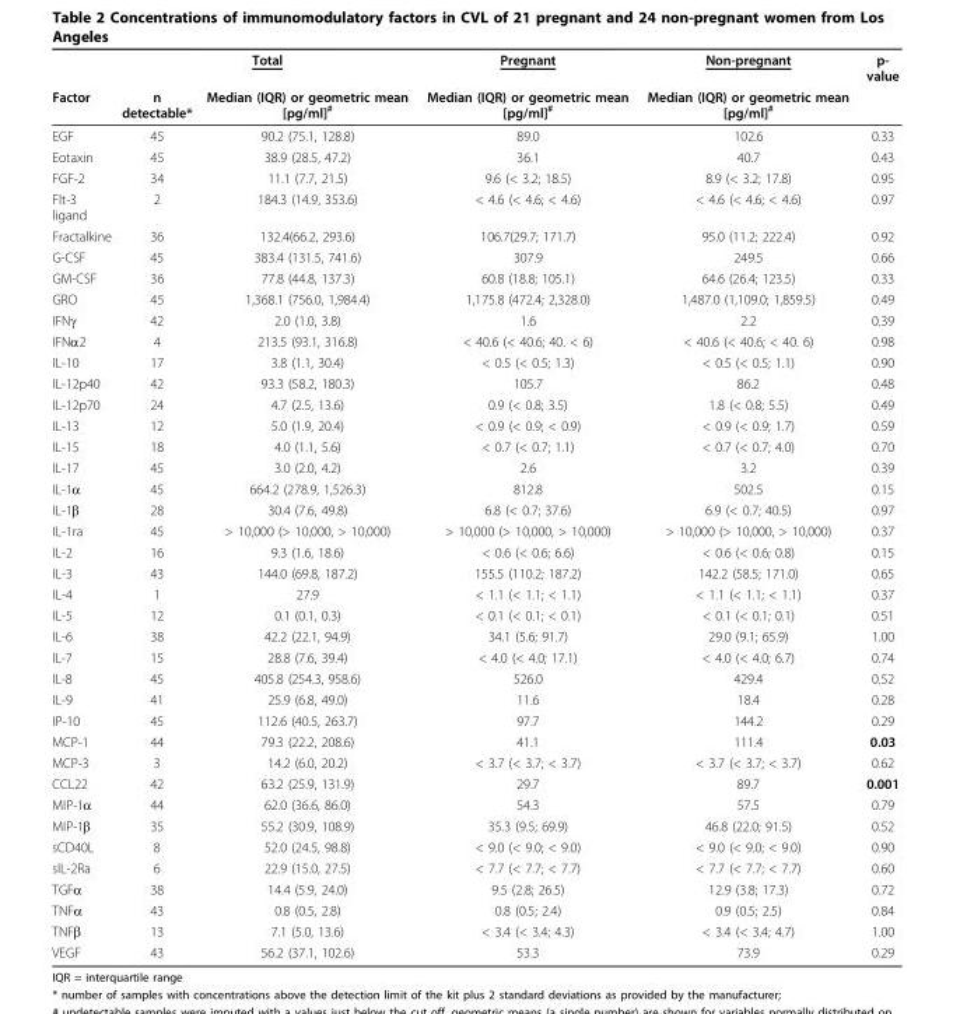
<table><thead><tr><td rowspan="2">Factor</td><td colspan="2">Total</td><td rowspan="2">Pregnant Median (IQR) or geometric mean [pg/ml]<sup>#</sup></td><td rowspan="2">Non-pregnant Median (IQR) or geometric mean [pg/ml]<sup>#</sup></td><td rowspan="2">p- value</td></tr><tr><td>n detectable*</td><td>Median (IQR) or geometric mean [pg/ml]<sup>#</sup></td></tr></thead><tbody><tr><td>EGF</td><td>45</td><td>90.2 (75.1, 128.8)</td><td>89.0</td><td>102.6</td><td>0.33</td></tr><tr><td>Eotaxin</td><td>45</td><td>38.9 (28.5, 47.2)</td><td>36.1</td><td>40.7</td><td>0.43</td></tr><tr><td>FGF-2</td><td>34</td><td>11.1 (7.7, 21.5)</td><td>9.6 (&lt; 3.2; 18.5)</td><td>8.9 (&lt; 3.2; 17.8)</td><td>0.95</td></tr><tr><td>Flt-3 ligand</td><td>2</td><td>184.3 (14.9, 353.6)</td><td>&lt; 4.6 (&lt; 4.6; &lt; 4.6)</td><td>&lt; 4.6 (&lt; 4.6; &lt; 4.6)</td><td>0.97</td></tr><tr><td>Fractalkine</td><td>36</td><td>132.4(66.2, 293.6)</td><td>106.7(29.7; 171.7)</td><td>95.0 (11.2; 222.4)</td><td>0.92</td></tr><tr><td>G-CSF</td><td>45</td><td>383.4 (131.5, 741.6)</td><td>307.9</td><td>249.5</td><td>0.66</td></tr><tr><td>GM-CSF</td><td>36</td><td>77.8 (44.8, 137.3)</td><td>60.8 (18.8; 105.1)</td><td>64.6 (26.4; 123.5)</td><td>0.33</td></tr><tr><td>GRO</td><td>45</td><td>1,368.1 (756.0, 1,984.4)</td><td>1,175.8 (472.4; 2,328.0)</td><td>1,487.0 (1,109.0; 1,859.5)</td><td>0.49</td></tr><tr><td>IFNγ</td><td>42</td><td>2.0 (1.0, 3.8)</td><td>1.6</td><td>2.2</td><td>0.39</td></tr><tr><td>IFNα2</td><td>4</td><td>213.5 (93.1, 316.8)</td><td>&lt; 40.6 (&lt; 40.6; 40. &lt; 6)</td><td>&lt; 40.6 (&lt; 40.6; &lt; 40. 6)</td><td>0.98</td></tr><tr><td>IL-10</td><td>17</td><td>3.8 (1.1, 30.4)</td><td>&lt; 0.5 (&lt; 0.5; 1.3)</td><td>&lt; 0.5 (&lt; 0.5; 1.1)</td><td>0.90</td></tr><tr><td>IL-12p40</td><td>42</td><td>93.3 (58.2, 180.3)</td><td>105.7</td><td>86.2</td><td>0.48</td></tr><tr><td>IL-12p70</td><td>24</td><td>4.7 (2.5, 13.6)</td><td>0.9 (&lt; 0.8; 3.5)</td><td>1.8 (&lt; 0.8; 5.5)</td><td>0.49</td></tr><tr><td>IL-13</td><td>12</td><td>5.0 (1.9, 20.4)</td><td>&lt; 0.9 (&lt; 0.9; &lt; 0.9)</td><td>&lt; 0.9 (&lt; 0.9; 1.7)</td><td>0.59</td></tr><tr><td>IL-15</td><td>18</td><td>4.0 (1.1, 5.6)</td><td>&lt; 0.7 (&lt; 0.7; 1.1)</td><td>&lt; 0.7 (&lt; 0.7; 4.0)</td><td>0.70</td></tr><tr><td>IL-17</td><td>45</td><td>3.0 (2.0, 4.2)</td><td>2.6</td><td>3.2</td><td>0.39</td></tr><tr><td>IL-1α</td><td>45</td><td>664.2 (278.9, 1,526.3)</td><td>812.8</td><td>502.5</td><td>0.15</td></tr><tr><td>IL-1β</td><td>28</td><td>30.4 (7.6, 49.8)</td><td>6.8 (&lt; 0.7; 37.6)</td><td>6.9 (&lt; 0.7; 40.5)</td><td>0.97</td></tr><tr><td>IL-1ra</td><td>45</td><td>&gt; 10,000 (&gt; 10,000, &gt; 10,000)</td><td>&gt; 10,000 (&gt; 10,000, &gt; 10,000)</td><td>&gt; 10,000 (&gt; 10,000, &gt; 10,000)</td><td>0.37</td></tr><tr><td>IL-2</td><td>16</td><td>9.3 (1.6, 18.6)</td><td>&lt; 0.6 (&lt; 0.6; 6.6)</td><td>&lt; 0.6 (&lt; 0.6; 0.8)</td><td>0.15</td></tr><tr><td>IL-3</td><td>43</td><td>144.0 (69.8, 187.2)</td><td>155.5 (110.2; 187.2)</td><td>142.2 (58.5; 171.0)</td><td>0.65</td></tr><tr><td>IL-4</td><td>1</td><td>27.9</td><td>&lt; 1.1 (&lt; 1.1; &lt; 1.1)</td><td>&lt; 1.1 (&lt; 1.1; &lt; 1.1)</td><td>0.37</td></tr><tr><td>IL-5</td><td>12</td><td>0.1 (0.1, 0.3)</td><td>&lt; 0.1 (&lt; 0.1; &lt; 0.1)</td><td>&lt; 0.1 (&lt; 0.1; 0.1)</td><td>0.51</td></tr><tr><td>IL-6</td><td>38</td><td>42.2 (22.1, 94.9)</td><td>34.1 (5.6; 91.7)</td><td>29.0 (9.1; 65.9)</td><td>1.00</td></tr><tr><td>IL-7</td><td>15</td><td>28.8 (7.6, 39.4)</td><td>&lt; 4.0 (&lt; 4.0; 17.1)</td><td>&lt; 4.0 (&lt; 4.0; 6.7)</td><td>0.74</td></tr><tr><td>IL-8</td><td>45</td><td>405.8 (254.3, 958.6)</td><td>526.0</td><td>429.4</td><td>0.52</td></tr><tr><td>IL-9</td><td>41</td><td>25.9 (6.8, 49.0)</td><td>11.6</td><td>18.4</td><td>0.28</td></tr><tr><td>IP-10</td><td>45</td><td>112.6 (40.5, 263.7)</td><td>97.7</td><td>144.2</td><td>0.29</td></tr><tr><td>MCP-1</td><td>44</td><td>79.3 (22.2, 208.6)</td><td>41.1</td><td>111.4</td><td>0.03</td></tr><tr><td>MCP-3</td><td>3</td><td>14.2 (6.0, 20.2)</td><td>&lt; 3.7 (&lt; 3.7; &lt; 3.7)</td><td>&lt; 3.7 (&lt; 3.7; &lt; 3.7)</td><td>0.62</td></tr><tr><td>CCL22</td><td>42</td><td>63.2 (25.9, 131.9)</td><td>29.7</td><td>89.7</td><td>0.001</td></tr><tr><td>MIP-1α</td><td>44</td><td>62.0 (36.6, 86.0)</td><td>54.3</td><td>57.5</td><td>0.79</td></tr><tr><td>MIP-1β</td><td>35</td><td>55.2 (30.9, 108.9)</td><td>35.3 (9.5; 69.9)</td><td>46.8 (22.0; 91.5)</td><td>0.52</td></tr><tr><td>sCD40L</td><td>8</td><td>52.0 (24.5, 98.8)</td><td>&lt; 9.0 (&lt; 9.0; &lt; 9.0)</td><td>&lt; 9.0 (&lt; 9.0; &lt; 9.0)</td><td>0.90</td></tr><tr><td>sIL-2Ra</td><td>6</td><td>22.9 (15.0, 27.5)</td><td>&lt; 7.7 (&lt; 7.7; &lt; 7.7)</td><td>&lt; 7.7 (&lt; 7.7; &lt; 7.7)</td><td>0.60</td></tr><tr><td>TGFα</td><td>38</td><td>14.4 (5.9, 24.0)</td><td>9.5 (2.8; 26.5)</td><td>12.9 (3.8; 17.3)</td><td>0.72</td></tr><tr><td>TNFα</td><td>43</td><td>0.8 (0.5, 2.8)</td><td>0.8 (0.5; 2.4)</td><td>0.9 (0.5; 2.5)</td><td>0.84</td></tr><tr><td>TNFβ</td><td>13</td><td>7.1 (5.0, 13.6)</td><td>&lt; 3.4 (&lt; 3.4; 4.3)</td><td>&lt; 3.4 (&lt; 3.4; 4.7)</td><td>1.00</td></tr><tr><td>VEGF</td><td>43</td><td>56.2 (37.1, 102.6)</td><td>53.3</td><td>73.9</td><td>0.29</td></tr></tbody></table>